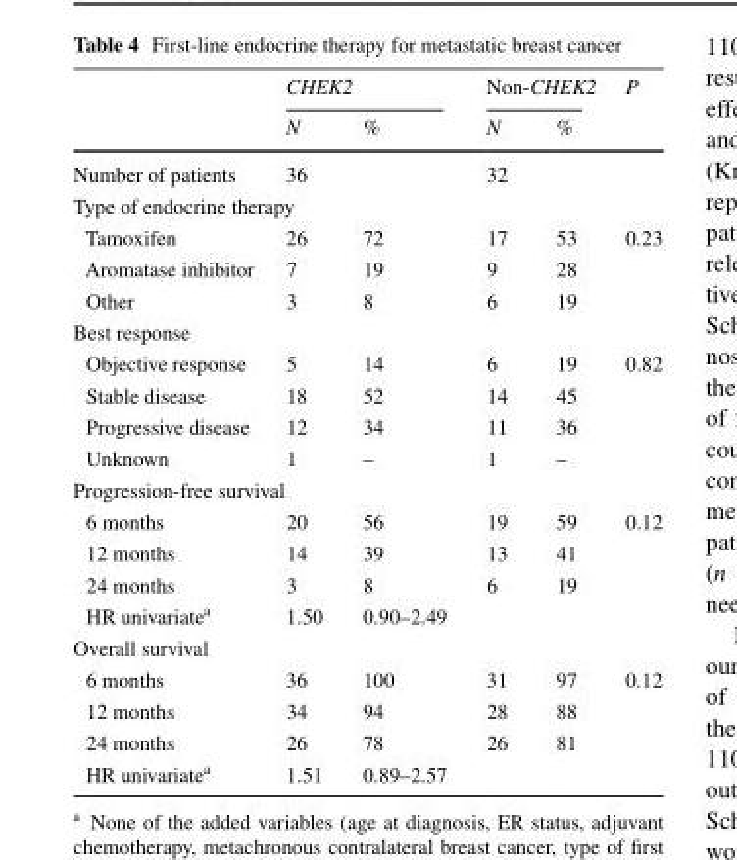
<table><thead><tr><td rowspan="2"></td><td colspan="2">CHEK2</td><td colspan="2">Non-CHEK2</td><td rowspan="2">P</td></tr><tr><td>N</td><td>%</td><td>N</td><td>%</td></tr></thead><tbody><tr><td>Number of patients</td><td>36</td><td></td><td>32</td><td></td><td></td></tr><tr><td colspan="6">Type of endocrine therapy</td></tr><tr><td>Tamoxifen</td><td>26</td><td>72</td><td>17</td><td>53</td><td>0.23</td></tr><tr><td>Aromatase inhibitor</td><td>7</td><td>19</td><td>9</td><td>28</td><td></td></tr><tr><td>Other</td><td>3</td><td>8</td><td>6</td><td>19</td><td></td></tr><tr><td colspan="6">Best response</td></tr><tr><td>Objective response</td><td>5</td><td>14</td><td>6</td><td>19</td><td>0.82</td></tr><tr><td>Stable disease</td><td>18</td><td>52</td><td>14</td><td>45</td><td></td></tr><tr><td>Progressive disease</td><td>12</td><td>34</td><td>11</td><td>36</td><td></td></tr><tr><td>Unknown</td><td>1</td><td>–</td><td>1</td><td>–</td><td></td></tr><tr><td colspan="6">Progression-free survival</td></tr><tr><td>6 months</td><td>20</td><td>56</td><td>19</td><td>59</td><td>0.12</td></tr><tr><td>12 months</td><td>14</td><td>39</td><td>13</td><td>41</td><td></td></tr><tr><td>24 months</td><td>3</td><td>8</td><td>6</td><td>19</td><td></td></tr><tr><td>HR univariate<sup>a</sup></td><td>1.50</td><td>0.90–2.49</td><td></td><td></td><td></td></tr><tr><td colspan="6">Overall survival</td></tr><tr><td>6 months</td><td>36</td><td>100</td><td>31</td><td>97</td><td>0.12</td></tr><tr><td>12 months</td><td>34</td><td>94</td><td>28</td><td>88</td><td></td></tr><tr><td>24 months</td><td>26</td><td>78</td><td>26</td><td>81</td><td></td></tr><tr><td>HR univariate<sup>a</sup></td><td>1.51</td><td>0.89–2.57</td><td></td><td></td><td></td></tr></tbody></table>